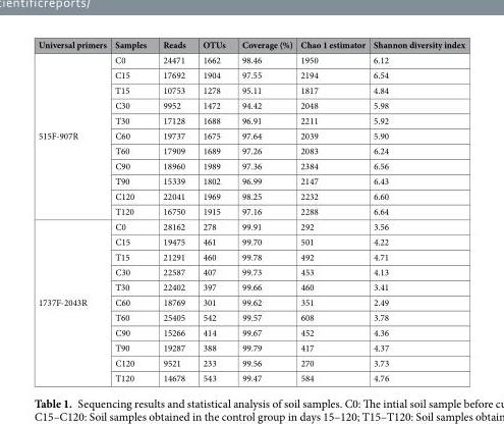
<table><thead><tr><td>Universal primers</td><td>Samples</td><td>Reads</td><td>OTUs</td><td>Coverage (%)</td><td>Chao 1 estimator</td><td>Shannon diversity index</td></tr></thead><tbody><tr><td rowspan="11">515F-907R</td><td>C0</td><td>24471</td><td>1662</td><td>98.46</td><td>1950</td><td>6.12</td></tr><tr><td>C15</td><td>17692</td><td>1904</td><td>97.55</td><td>2194</td><td>6.54</td></tr><tr><td>T15</td><td>10753</td><td>1278</td><td>95.11</td><td>1817</td><td>4.84</td></tr><tr><td>C30</td><td>9952</td><td>1472</td><td>94.42</td><td>2048</td><td>5.98</td></tr><tr><td>T30</td><td>17128</td><td>1688</td><td>96.91</td><td>2211</td><td>5.92</td></tr><tr><td>C60</td><td>19737</td><td>1675</td><td>97.64</td><td>2039</td><td>5.90</td></tr><tr><td>T60</td><td>17909</td><td>1689</td><td>97.26</td><td>2083</td><td>6.24</td></tr><tr><td>C90</td><td>18960</td><td>1989</td><td>97.36</td><td>2384</td><td>6.56</td></tr><tr><td>T90</td><td>15339</td><td>1802</td><td>96.99</td><td>2147</td><td>6.43</td></tr><tr><td>C120</td><td>22041</td><td>1969</td><td>98.25</td><td>2232</td><td>6.60</td></tr><tr><td>T120</td><td>16750</td><td>1915</td><td>97.16</td><td>2288</td><td>6.64</td></tr><tr><td rowspan="11">1737F-2043R</td><td>C0</td><td>28162</td><td>278</td><td>99.91</td><td>292</td><td>3.56</td></tr><tr><td>C15</td><td>19475</td><td>461</td><td>99.70</td><td>501</td><td>4.22</td></tr><tr><td>T15</td><td>21291</td><td>460</td><td>99.78</td><td>492</td><td>4.71</td></tr><tr><td>C30</td><td>22587</td><td>407</td><td>99.73</td><td>453</td><td>4.13</td></tr><tr><td>T30</td><td>22402</td><td>397</td><td>99.66</td><td>460</td><td>3.41</td></tr><tr><td>C60</td><td>18769</td><td>301</td><td>99.62</td><td>351</td><td>2.49</td></tr><tr><td>T60</td><td>25405</td><td>542</td><td>99.57</td><td>608</td><td>3.78</td></tr><tr><td>C90</td><td>15266</td><td>414</td><td>99.67</td><td>452</td><td>4.36</td></tr><tr><td>T90</td><td>19287</td><td>388</td><td>99.79</td><td>417</td><td>4.37</td></tr><tr><td>C120</td><td>9521</td><td>233</td><td>99.56</td><td>270</td><td>3.73</td></tr><tr><td>T120</td><td>14678</td><td>543</td><td>99.47</td><td>584</td><td>4.76</td></tr></tbody></table>